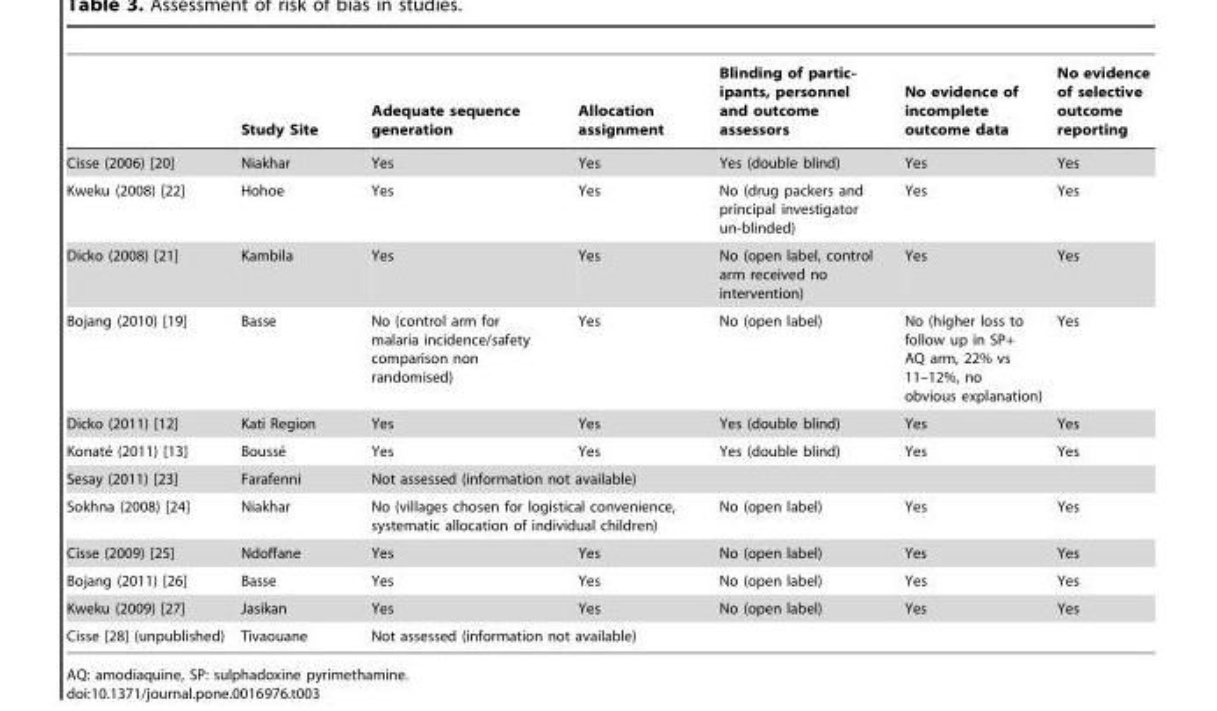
<table><thead><tr><td></td><td>Study Site</td><td>Adequate sequence generation</td><td>Allocation assignment</td><td>Blinding of partic- ipants, personnel and outcome assessors</td><td>No evidence of incomplete outcome data</td><td>No evidence of selective outcome reporting</td></tr></thead><tbody><tr><td>Cisse (2006) [20]</td><td>Niakhar</td><td>Yes</td><td>Yes</td><td>Yes (double blind)</td><td>Yes</td><td>Yes</td></tr><tr><td>Kweku (2008) [22]</td><td>Hohoe</td><td>Yes</td><td>Yes</td><td>No (drug packers and principal investigator un-blinded)</td><td>Yes</td><td>Yes</td></tr><tr><td>Dicko (2008) [21]</td><td>Kambila</td><td>Yes</td><td>Yes</td><td>No (open label, control arm received no intervention)</td><td>Yes</td><td>Yes</td></tr><tr><td>Bojang (2010) [19]</td><td>Basse</td><td>No (control arm for malaria incidence/safety comparison non randomised)</td><td>Yes</td><td>No (open label)</td><td>No (higher loss to follow up in SP+ AQ arm, 22% vs 11–12%, no obvious explanation)</td><td>Yes</td></tr><tr><td>Dicko (2011) [12]</td><td>Kati Region</td><td>Yes</td><td>Yes</td><td>Yes (double blind)</td><td>Yes</td><td>Yes</td></tr><tr><td>Konate´ (2011) [13]</td><td>Bousse´</td><td>Yes</td><td>Yes</td><td>Yes (double blind)</td><td>Yes</td><td>Yes</td></tr><tr><td>Sesay (2011) [23]</td><td>Farafenni</td><td colspan="5">Not assessed (information not available)</td></tr><tr><td>Sokhna (2008) [24]</td><td>Niakhar</td><td colspan="2">No (villages chosen for logistical convenience, systematic allocation of individual children)</td><td>No (open label)</td><td>Yes</td><td>Yes</td></tr><tr><td>Cisse (2009) [25]</td><td>Ndoffane</td><td>Yes</td><td>Yes</td><td>No (open label)</td><td>Yes</td><td>Yes</td></tr><tr><td>Bojang (2011) [26]</td><td>Basse</td><td>Yes</td><td>Yes</td><td>No (open label)</td><td>Yes</td><td>Yes</td></tr><tr><td>Kweku (2009) [27]</td><td>Jasikan</td><td>Yes</td><td>Yes</td><td>No (open label)</td><td>Yes</td><td>Yes</td></tr><tr><td>Cisse [28] (unpublished)</td><td>Tivaouane</td><td colspan="5">Not assessed (information not available)</td></tr></tbody></table>